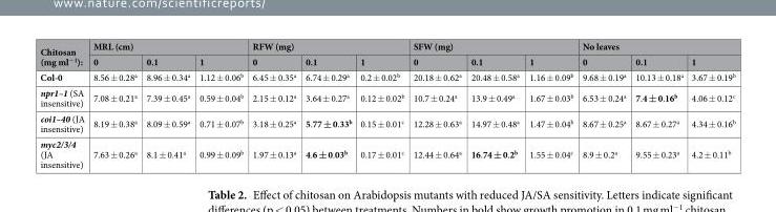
<table><thead><tr><td rowspan="2">Chitosan (mg ml<sup>−1</sup>):</td><td colspan="3">MRL (cm)</td><td colspan="3">RFW (mg)</td><td colspan="3">SFW (mg)</td><td colspan="3">No leaves</td></tr><tr><td>0</td><td>0.1</td><td>1</td><td>0</td><td>0.1</td><td>1</td><td>0</td><td>0.1</td><td>1</td><td>0</td><td>0.1</td><td>1</td></tr></thead><tbody><tr><td>Col-0</td><td>8.56 ± 0.28<sup>a</sup></td><td>8.96 ± 0.34<sup>a</sup></td><td>1.12 ± 0.06<sup>b</sup></td><td>6.45 ± 0.35<sup>a</sup></td><td>6.74 ± 0.29<sup>a</sup></td><td>0.2 ± 0.02<sup>b</sup></td><td>20.18 ± 0.62<sup>a</sup></td><td>20.48 ± 0.58<sup>a</sup></td><td>1.16 ± 0.09<sup>b</sup></td><td>9.68 ± 0.19<sup>a</sup></td><td>10.13 ± 0.18<sup>a</sup></td><td>3.67 ± 0.19<sup>b</sup></td></tr><tr><td>npr1–1 (SA insensitive)</td><td>7.08 ± 0.21<sup>a</sup></td><td>7.39 ± 0.45<sup>a</sup></td><td>0.59 ± 0.04<sup>b</sup></td><td>2.15 ± 0.12<sup>a</sup></td><td>3.64 ± 0.27<sup>a</sup></td><td>0.12 ± 0.02<sup>b</sup></td><td>10.7 ± 0.24<sup>a</sup></td><td>13.9 ± 0.49<sup>a</sup></td><td>1.67 ± 0.03<sup>b</sup></td><td>6.53 ± 0.24<sup>a</sup></td><td>7.4 ± 0.16<sup>b</sup></td><td>4.06 ± 0.12<sup>c</sup></td></tr><tr><td>coi1–40 (JA insensitive)</td><td>8.19 ± 0.38<sup>a</sup></td><td>8.09 ± 0.59<sup>a</sup></td><td>0.71 ± 0.07<sup>b</sup></td><td>3.18 ± 0.25<sup>a</sup></td><td>5.77 ± 0.33<sup>b</sup></td><td>0.15 ± 0.01<sup>c</sup></td><td>12.28 ± 0.63<sup>a</sup></td><td>14.97 ± 0.48<sup>a</sup></td><td>1.47 ± 0.04<sup>b</sup></td><td>8.67 ± 0.25<sup>a</sup></td><td>8.67 ± 0.27<sup>a</sup></td><td>4.34 ± 0.16<sup>b</sup></td></tr><tr><td>myc2/3/4 (JA insensitive)</td><td>7.63 ± 0.26<sup>a</sup></td><td>8.1 ± 0.41<sup>a</sup></td><td>0.99 ± 0.09<sup>b</sup></td><td>1.97 ± 0.13<sup>a</sup></td><td>4.6 ± 0.03<sup>b</sup></td><td>0.17 ± 0.01<sup>c</sup></td><td>12.44 ± 0.64<sup>a</sup></td><td>16.74 ± 0.2<sup>b</sup></td><td>1.55 ± 0.04<sup>c</sup></td><td>8.9 ± 0.2<sup>a</sup></td><td>9.55 ± 0.23<sup>a</sup></td><td>4.2 ± 0.11<sup>b</sup></td></tr></tbody></table>